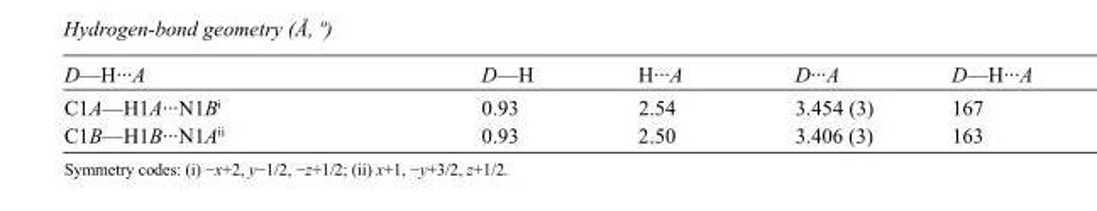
<table><tbody><tr><td>D—H···A</td><td>D—H</td><td>H···A</td><td>D···A</td><td>D—H···A</td></tr><tr><td>C1A—H1A···N1B<sup>i</sup></td><td>0.93</td><td>2.54</td><td>3.454 (3)</td><td>167</td></tr><tr><td>C1B—H1B···N1A<sup>ii</sup></td><td>0.93</td><td>2.50</td><td>3.406 (3)</td><td>163</td></tr></tbody></table>